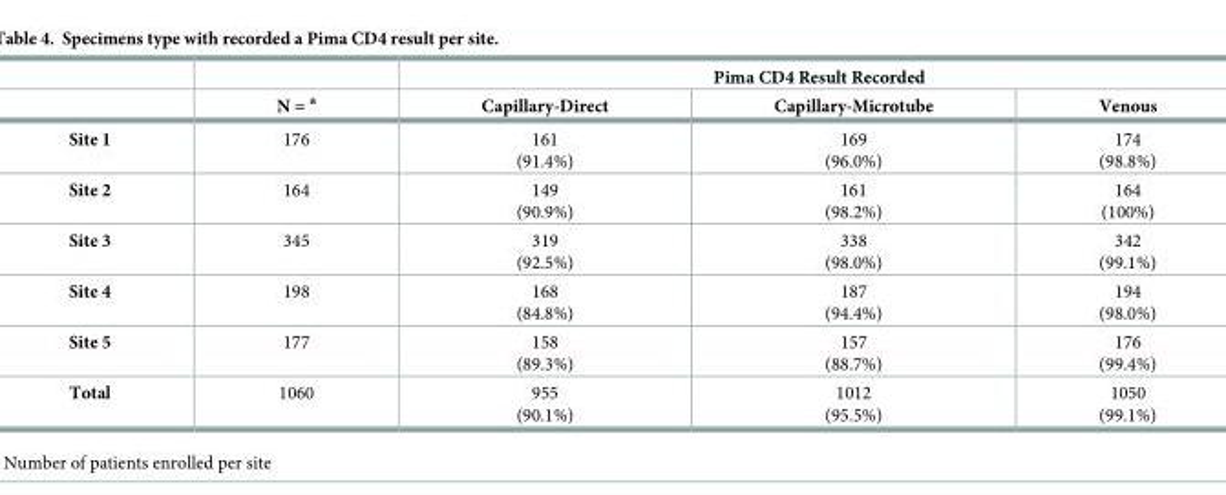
<table><thead><tr><td rowspan="2"></td><td rowspan="2">N = <sup>a</sup></td><td colspan="3">Pima CD4 Result Recorded</td></tr><tr><td>Capillary-Direct</td><td>Capillary-Microtube</td><td>Venous</td></tr></thead><tbody><tr><td>Site 1</td><td>176</td><td>161 (91.4%)</td><td>169 (96.0%)</td><td>174 (98.8%)</td></tr><tr><td>Site 2</td><td>164</td><td>149 (90.9%)</td><td>161 (98.2%)</td><td>164 (100%)</td></tr><tr><td>Site 3</td><td>345</td><td>319 (92.5%)</td><td>338 (98.0%)</td><td>342 (99.1%)</td></tr><tr><td>Site 4</td><td>198</td><td>168 (84.8%)</td><td>187 (94.4%)</td><td>194 (98.0%)</td></tr><tr><td>Site 5</td><td>177</td><td>158 (89.3%)</td><td>157 (88.7%)</td><td>176 (99.4%)</td></tr><tr><td>Total</td><td>1060</td><td>955 (90.1%)</td><td>1012 (95.5%)</td><td>1050 (99.1%)</td></tr></tbody></table>